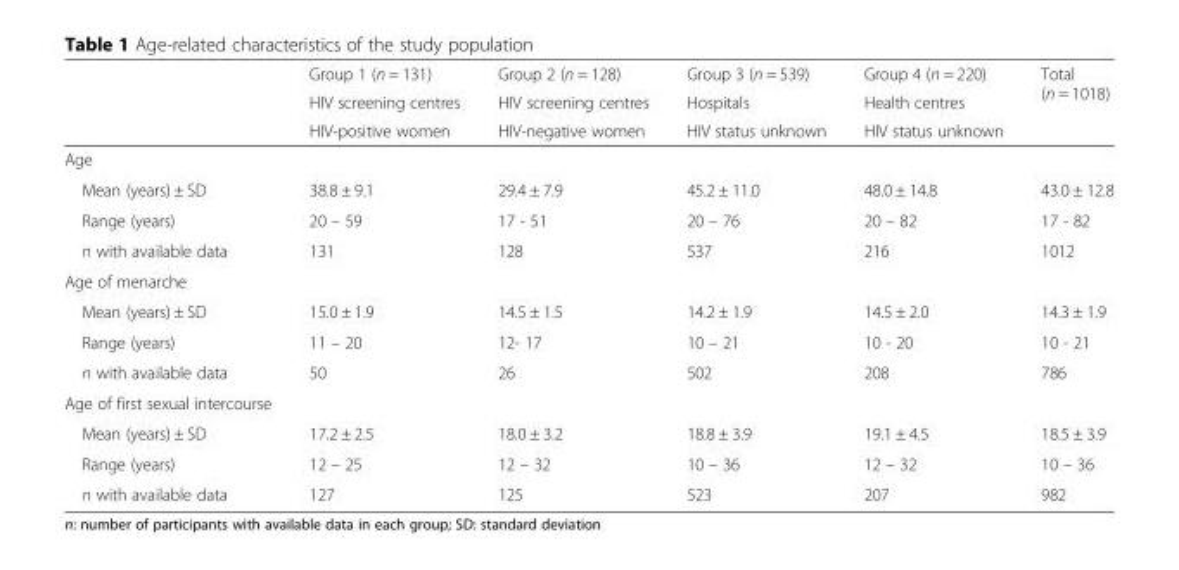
<table><thead><tr><td rowspan="3"></td><td rowspan="3">Group 1 (n = 131) HIV screening centres HIV-positive women</td><td rowspan="3">Group 2 (n = 128) HIV screening centres HIV-negative women</td><td rowspan="3">Group 3 (n = 539) Hospitals HIV status unknown</td><td rowspan="3">Group 4 (n = 220) Health centres HIV status unknown</td><td rowspan="3">Total (n = 1018)</td></tr><tr></tr><tr></tr></thead><tbody><tr><td colspan="6">Age</td></tr><tr><td>Mean (years) ± SD</td><td>38.8 ± 9.1</td><td>29.4 ± 7.9</td><td>45.2 ± 11.0</td><td>48.0 ± 14.8</td><td>43.0 ± 12.8</td></tr><tr><td>Range (years)</td><td>20 – 59</td><td>17 - 51</td><td>20 – 76</td><td>20 – 82</td><td>17 - 82</td></tr><tr><td>n with available data</td><td>131</td><td>128</td><td>537</td><td>216</td><td>1012</td></tr><tr><td colspan="6">Age of menarche</td></tr><tr><td>Mean (years) ± SD</td><td>15.0 ± 1.9</td><td>14.5 ± 1.5</td><td>14.2 ± 1.9</td><td>14.5 ± 2.0</td><td>14.3 ± 1.9</td></tr><tr><td>Range (years)</td><td>11 – 20</td><td>12- 17</td><td>10 – 21</td><td>10 - 20</td><td>10 - 21</td></tr><tr><td>n with available data</td><td>50</td><td>26</td><td>502</td><td>208</td><td>786</td></tr><tr><td colspan="6">Age of first sexual intercourse</td></tr><tr><td>Mean (years) ± SD</td><td>17.2 ± 2.5</td><td>18.0 ± 3.2</td><td>18.8 ± 3.9</td><td>19.1 ± 4.5</td><td>18.5 ± 3.9</td></tr><tr><td>Range (years)</td><td>12 – 25</td><td>12 – 32</td><td>10 – 36</td><td>12 – 32</td><td>10 – 36</td></tr><tr><td>n with available data</td><td>127</td><td>125</td><td>523</td><td>207</td><td>982</td></tr></tbody></table>